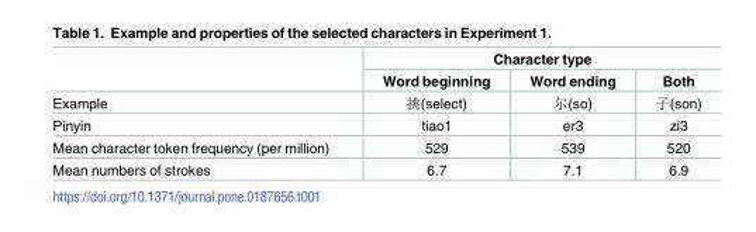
<table><thead><tr><td rowspan="2"></td><td colspan="3">Character type</td></tr><tr><td>Word beginning</td><td>Word ending</td><td>Both</td></tr></thead><tbody><tr><td>Example</td><td>挑(select)</td><td>尔(so)</td><td>子(son)</td></tr><tr><td>Pinyin</td><td>tiao1</td><td>er3</td><td>zi3</td></tr><tr><td>Mean character token frequency (per million)</td><td>529</td><td>539</td><td>520</td></tr><tr><td>Mean numbers of strokes</td><td>6.7</td><td>7.1</td><td>6.9</td></tr></tbody></table>